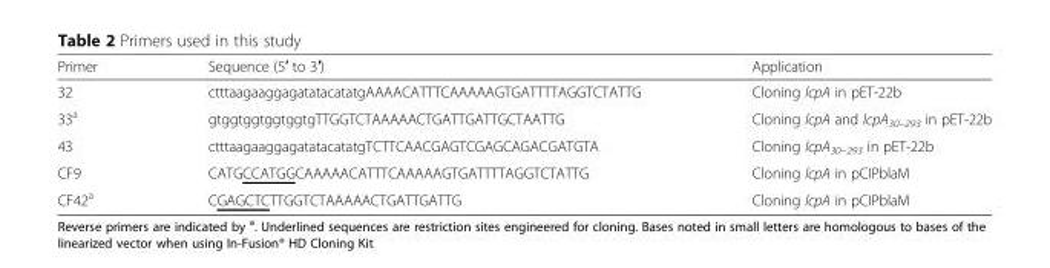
<table><thead><tr><td>Primer</td><td>Sequence (5′ to 3′)</td><td>Application</td></tr></thead><tbody><tr><td>32</td><td>ctttaagaaggagatatacatatgAAAACATTTCAAAAAGTGATTTTAGGTCTATTG</td><td>Cloning lcpA in pET-22b</td></tr><tr><td>33<sup>a</sup></td><td>gtggtggtggtggtgTTGGTCTAAAAACTGATTGATTGCTAATTG</td><td>Cloning lcpA and lcpA<sub>30–293</sub> in pET-22b</td></tr><tr><td>43</td><td>ctttaagaaggagatatacatatgTCTTCAACGAGTCGAGCAGACGATGTA</td><td>Cloning lcpA<sub>30–293</sub> in pET-22b</td></tr><tr><td>CF9</td><td>CATGCCATGGCAAAAACATTTCAAAAAGTGATTTTAGGTCTATTG</td><td>Cloning lcpA in pCIPblaM</td></tr><tr><td>CF42<sup>a</sup></td><td>CGAGCTCTTGGTCTAAAAACTGATTGATTG</td><td>Cloning lcpA in pCIPblaM</td></tr></tbody></table>